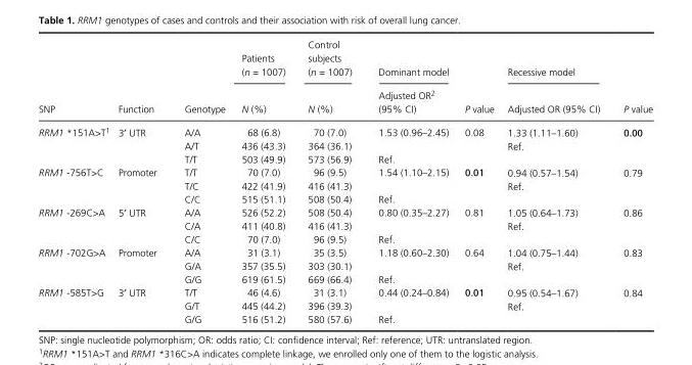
<table><thead><tr><td rowspan="2">SNP</td><td rowspan="2">Function</td><td rowspan="2">Genotype</td><td rowspan="2">Patients (n = 1007) N (%)</td><td rowspan="2">Control subjects (n = 1007) N (%)</td><td rowspan="2">Dominant model Adjusted OR2 (95% CI)</td><td rowspan="2">P value</td><td rowspan="2">Recessive model Adjusted OR (95% CI)</td><td rowspan="2">P value</td></tr><tr></tr></thead><tbody><tr><td rowspan="3">RRM1 *151A&gt;T1</td><td rowspan="3">3′ UTR</td><td>A/A</td><td>68 (6.8)</td><td>70 (7.0)</td><td rowspan="2">1.53 (0.96–2.45)</td><td rowspan="3">0.08</td><td>1.33 (1.11–1.60)</td><td rowspan="3">0.00</td></tr><tr><td>A/T</td><td>436 (43.3)</td><td>364 (36.1)</td><td rowspan="2">Ref.</td></tr><tr><td>T/T</td><td>503 (49.9)</td><td>573 (56.9)</td><td>Ref.</td></tr><tr><td rowspan="3">RRM1 - 756T&gt;C</td><td rowspan="3">Promoter</td><td>T/T</td><td>70 (7.0)</td><td>96 (9.5)</td><td rowspan="2">1.54 (1.10–2.15)</td><td rowspan="3">0.01</td><td>0.94 (0.57–1.54)</td><td rowspan="3">0.79</td></tr><tr><td>T/C</td><td>422 (41.9)</td><td>416 (41.3)</td><td rowspan="2">Ref.</td></tr><tr><td>C/C</td><td>515 (51.1)</td><td>508 (50.4)</td><td>Ref.</td></tr><tr><td rowspan="3">RRM1 - 269C&gt;A</td><td rowspan="3">5′ UTR</td><td>A/A</td><td>526 (52.2)</td><td>508 (50.4)</td><td rowspan="2">0.80 (0.35–2.27)</td><td rowspan="3">0.81</td><td>1.05 (0.64–1.73)</td><td rowspan="3">0.86</td></tr><tr><td>C/A</td><td>411 (40.8)</td><td>416 (41.3)</td><td rowspan="2">Ref.</td></tr><tr><td>C/C</td><td>70 (7.0)</td><td>96 (9.5)</td><td>Ref.</td></tr><tr><td rowspan="3">RRM1 - 702G&gt;A</td><td rowspan="3">Promoter</td><td>A/A</td><td>31 (3.1)</td><td>35 (3.5)</td><td rowspan="2">1.18 (0.60–2.30)</td><td rowspan="3">0.64</td><td>1.04 (0.75–1.44)</td><td rowspan="3">0.83</td></tr><tr><td>G/A</td><td>357 (35.5)</td><td>303 (30.1)</td><td rowspan="2">Ref.</td></tr><tr><td>G/G</td><td>619 (61.5)</td><td>669 (66.4)</td><td>Ref.</td></tr><tr><td rowspan="3">RRM1 - 585T&gt;G</td><td rowspan="3">3′ UTR</td><td>T/T</td><td>46 (4.6)</td><td>31 (3.1)</td><td rowspan="2">0.44 (0.24–0.84)</td><td rowspan="3">0.01</td><td>0.95 (0.54–1.67)</td><td rowspan="3">0.84</td></tr><tr><td>G/T</td><td>445 (44.2)</td><td>396 (39.3)</td><td rowspan="2">Ref.</td></tr><tr><td>G/G</td><td>516 (51.2)</td><td>580 (57.6)</td><td>Ref.</td></tr></tbody></table>